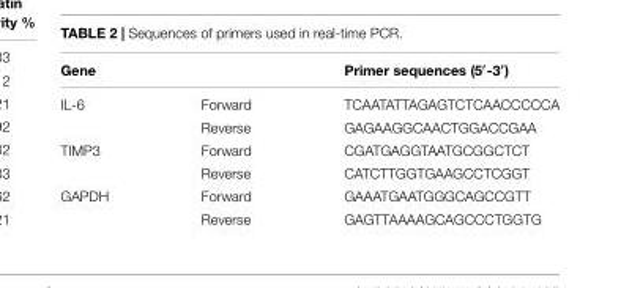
<table><thead><tr><td>Gene</td><td></td><td>Primer sequences (5′-3′)</td></tr></thead><tbody><tr><td rowspan="2">IL-6</td><td>Forward</td><td>TCAATATTAGAGTCTCAACCCCCA</td></tr><tr><td>Reverse</td><td>GAGAAGGCAACTGGACCGAA</td></tr><tr><td rowspan="2">TIMP3</td><td>Forward</td><td>CGATGAGGTAATGCGGCTCT</td></tr><tr><td>Reverse</td><td>CATCTTGGTGAAGCCTCGGT</td></tr><tr><td rowspan="2">GAPDH</td><td>Forward</td><td>GAAATGAATGGGCAGCCGTT</td></tr><tr><td>Reverse</td><td>GAGTTAAAAGCAGCCCTGGTG</td></tr></tbody></table>